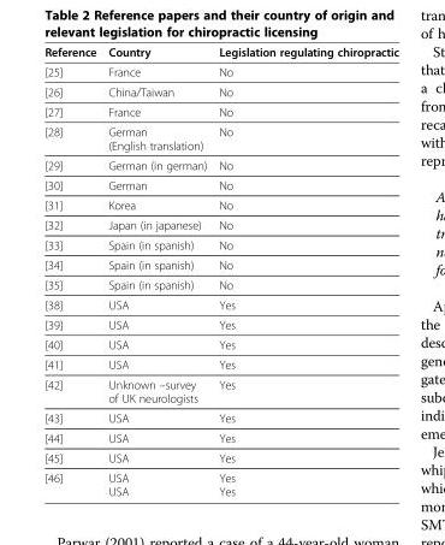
<table><thead><tr><td>Reference</td><td>Country</td><td>Legislation regulating chiropractic</td></tr></thead><tbody><tr><td>[25]</td><td>France</td><td>No</td></tr><tr><td>[26]</td><td>China/Taiwan</td><td>No</td></tr><tr><td>[27]</td><td>France</td><td>No</td></tr><tr><td>[28]</td><td>German (English translation)</td><td>No</td></tr><tr><td>[29]</td><td>German (in german)</td><td>No</td></tr><tr><td>[30]</td><td>German</td><td>No</td></tr><tr><td>[31]</td><td>Korea</td><td>No</td></tr><tr><td>[32]</td><td>Japan (in japanese)</td><td>No</td></tr><tr><td>[33]</td><td>Spain (in spanish)</td><td>No</td></tr><tr><td>[34]</td><td>Spain (in spanish)</td><td>No</td></tr><tr><td>[35]</td><td>Spain (in spanish)</td><td>No</td></tr><tr><td>[38]</td><td>USA</td><td>Yes</td></tr><tr><td>[39]</td><td>USA</td><td>Yes</td></tr><tr><td>[40]</td><td>USA</td><td>Yes</td></tr><tr><td>[41]</td><td>USA</td><td>Yes</td></tr><tr><td>[42]</td><td>Unknown –survey of UK neurologists</td><td>Yes</td></tr><tr><td>[43]</td><td>USA</td><td>Yes</td></tr><tr><td>[44]</td><td>USA</td><td>Yes</td></tr><tr><td>[45]</td><td>USA</td><td>Yes</td></tr><tr><td rowspan="2">[46]</td><td>USA</td><td>Yes</td></tr><tr><td>USA</td><td>Yes</td></tr></tbody></table>